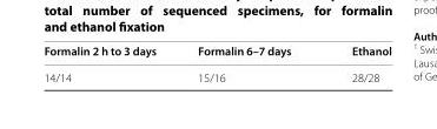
<table><thead><tr><td>Formalin 2 h to 3 days</td><td>Formalin 6–7 days</td><td>Ethanol</td></tr></thead><tbody><tr><td>14/14</td><td>15/16</td><td>28/28</td></tr></tbody></table>